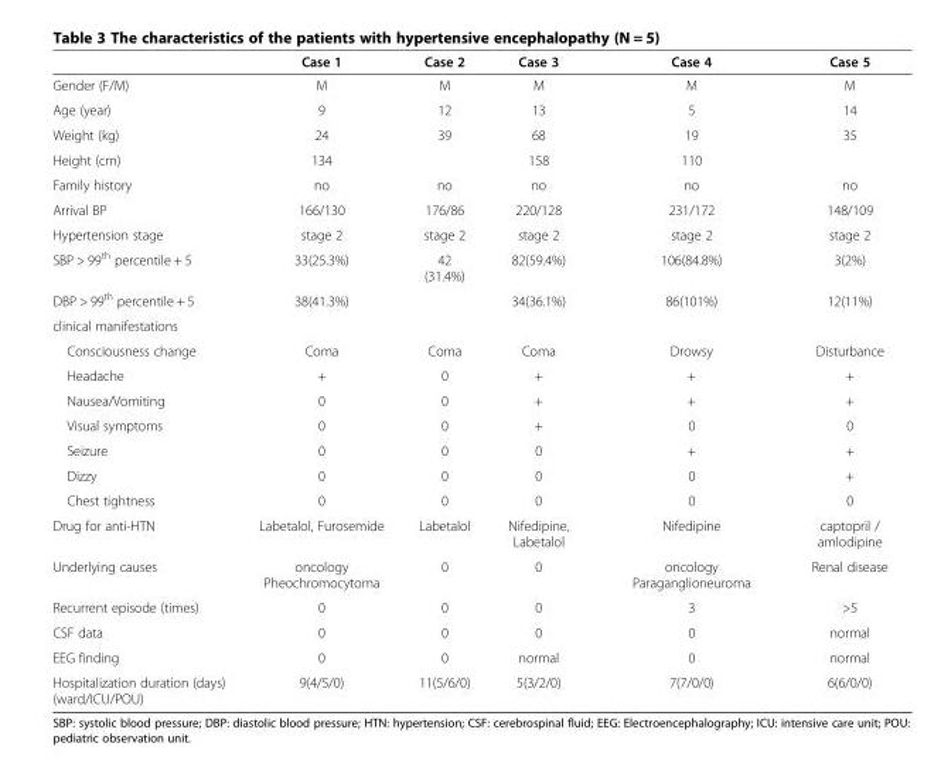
<table><thead><tr><td></td><td>Case 1</td><td>Case 2</td><td>Case 3</td><td>Case 4</td><td>Case 5</td></tr></thead><tbody><tr><td>Gender (F/M)</td><td>M</td><td>M</td><td>M</td><td>M</td><td>M</td></tr><tr><td>Age (year)</td><td>9</td><td>12</td><td>13</td><td>5</td><td>14</td></tr><tr><td>Weight (kg)</td><td>24</td><td>39</td><td>68</td><td>19</td><td>35</td></tr><tr><td>Height (cm)</td><td>134</td><td></td><td>158</td><td>110</td><td></td></tr><tr><td>Family history</td><td>no</td><td>no</td><td>no</td><td>no</td><td>no</td></tr><tr><td>Arrival BP</td><td>166/130</td><td>176/86</td><td>220/128</td><td>231/172</td><td>148/109</td></tr><tr><td>Hypertension stage</td><td>stage 2</td><td>stage 2</td><td>stage 2</td><td>stage 2</td><td>stage 2</td></tr><tr><td>SBP &gt; 99<sup>th</sup> percentile + 5</td><td>33(25.3%)</td><td>42 (31.4%)</td><td>82(59.4%)</td><td>106(84.8%)</td><td>3(2%)</td></tr><tr><td>DBP &gt; 99<sup>th</sup> percentile + 5</td><td>38(41.3%)</td><td></td><td>34(36.1%)</td><td>86(101%)</td><td>12(11%)</td></tr><tr><td colspan="6">clinical manifestations</td></tr><tr><td>Consciousness change</td><td>Coma</td><td>Coma</td><td>Coma</td><td>Drowsy</td><td>Disturbance</td></tr><tr><td>Headache</td><td>+</td><td>0</td><td>+</td><td>+</td><td>+</td></tr><tr><td>Nausea/Vomiting</td><td>0</td><td>0</td><td>+</td><td>+</td><td>+</td></tr><tr><td>Visual symptoms</td><td>0</td><td>0</td><td>+</td><td>0</td><td>0</td></tr><tr><td>Seizure</td><td>0</td><td>0</td><td>0</td><td>+</td><td>+</td></tr><tr><td>Dizzy</td><td>0</td><td>0</td><td>0</td><td>0</td><td>+</td></tr><tr><td>Chest tightness</td><td>0</td><td>0</td><td>0</td><td>0</td><td>0</td></tr><tr><td>Drug for anti-HTN</td><td>Labetalol, Furosemide</td><td>Labetalol</td><td>Nifedipine, Labetalol</td><td>Nifedipine</td><td>captopril / amlodipine</td></tr><tr><td>Underlying causes</td><td>oncology Pheochromocytoma</td><td>0</td><td>0</td><td>oncology Paraganglioneuroma</td><td>Renal disease</td></tr><tr><td>Recurrent episode (times)</td><td>0</td><td>0</td><td>0</td><td>3</td><td>&gt;5</td></tr><tr><td>CSF data</td><td>0</td><td>0</td><td>0</td><td>0</td><td>normal</td></tr><tr><td>EEG finding</td><td>0</td><td>0</td><td>normal</td><td>0</td><td>normal</td></tr><tr><td>Hospitalization duration (days) (ward/ICU/POU)</td><td>9(4/5/0)</td><td>11(5/6/0)</td><td>5(3/2/0)</td><td>7(7/0/0)</td><td>6(6/0/0)</td></tr></tbody></table>